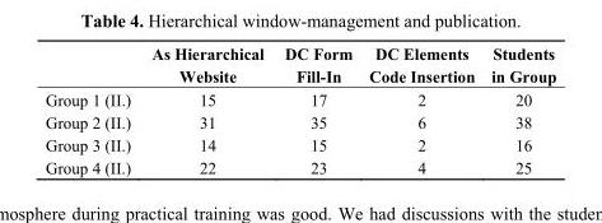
<table><thead><tr><td></td><td>As Hierarchical Website</td><td>DC Form Fill-In</td><td>DC Elements Code Insertion</td><td>Students in Group</td></tr></thead><tbody><tr><td>Group 1 (II.)</td><td>15</td><td>17</td><td>2</td><td>20</td></tr><tr><td>Group 2 (II.)</td><td>31</td><td>35</td><td>6</td><td>38</td></tr><tr><td>Group 3 (II.)</td><td>14</td><td>15</td><td>2</td><td>16</td></tr><tr><td>Group 4 (II.)</td><td>22</td><td>23</td><td>4</td><td>25</td></tr></tbody></table>